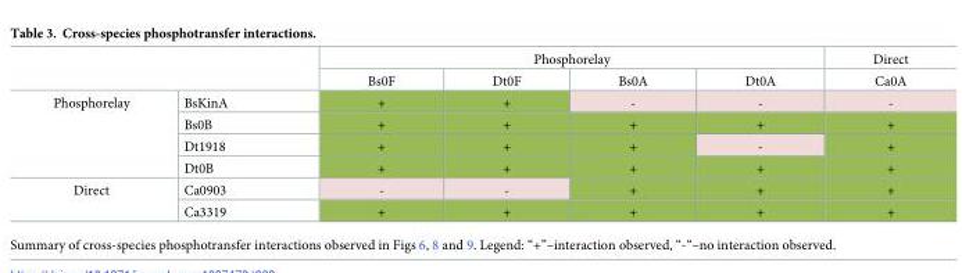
<table><thead><tr><td rowspan="2"></td><td rowspan="2"></td><td colspan="4">Phosphorelay</td><td rowspan="2">Direct Ca0A</td></tr><tr><td>Bs0F</td><td>Dt0F</td><td>Bs0A</td><td>Dt0A</td></tr></thead><tbody><tr><td rowspan="4">Phosphorelay</td><td>BsKinA</td><td>+</td><td>+</td><td>-</td><td>-</td><td>-</td></tr><tr><td>Bs0B</td><td>+</td><td>+</td><td>+</td><td>+</td><td>+</td></tr><tr><td>Dt1918</td><td>+</td><td>+</td><td>+</td><td>-</td><td>+</td></tr><tr><td>Dt0B</td><td>+</td><td>+</td><td>+</td><td>+</td><td>+</td></tr><tr><td rowspan="2">Direct</td><td>Ca0903</td><td>-</td><td>-</td><td>+</td><td>+</td><td>+</td></tr><tr><td>Ca3319</td><td>+</td><td>+</td><td>+</td><td>+</td><td>+</td></tr></tbody></table>